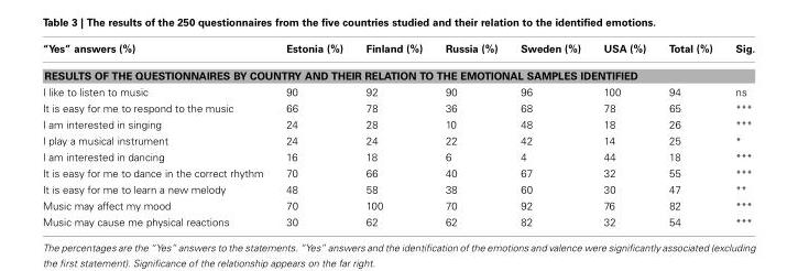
<table><thead><tr><td>“Yes” answers (%)</td><td>Estonia (%)</td><td>Finland (%)</td><td>Russia (%)</td><td>Sweden (%)</td><td>USA (%)</td><td>Total (%)</td><td>Sig.</td></tr></thead><tbody><tr><td colspan="8">RESULTS OF THE QUESTIONNAIRES BY COUNTRY AND THEIR RELATION TO THE EMOTIONAL SAMPLES IDENTIFIED</td></tr><tr><td>I like to listen to music</td><td>90</td><td>92</td><td>90</td><td>96</td><td>100</td><td>94</td><td>ns</td></tr><tr><td>It is easy for me to respond to the music</td><td>66</td><td>78</td><td>36</td><td>68</td><td>78</td><td>65</td><td>***</td></tr><tr><td>I am interested in singing</td><td>24</td><td>28</td><td>10</td><td>48</td><td>18</td><td>26</td><td>***</td></tr><tr><td>I play a musical instrument</td><td>24</td><td>24</td><td>22</td><td>42</td><td>14</td><td>25</td><td>*</td></tr><tr><td>I am interested in dancing</td><td>16</td><td>18</td><td>6</td><td>4</td><td>44</td><td>18</td><td>***</td></tr><tr><td>It is easy for me to dance in the correct rhythm</td><td>70</td><td>66</td><td>40</td><td>67</td><td>32</td><td>55</td><td>***</td></tr><tr><td>It is easy for me to learn a new melody</td><td>48</td><td>58</td><td>38</td><td>60</td><td>30</td><td>47</td><td>**</td></tr><tr><td>Music may affect my mood</td><td>70</td><td>100</td><td>70</td><td>92</td><td>76</td><td>82</td><td>***</td></tr><tr><td>Music may cause me physical reactions</td><td>30</td><td>62</td><td>62</td><td>82</td><td>32</td><td>54</td><td>***</td></tr></tbody></table>